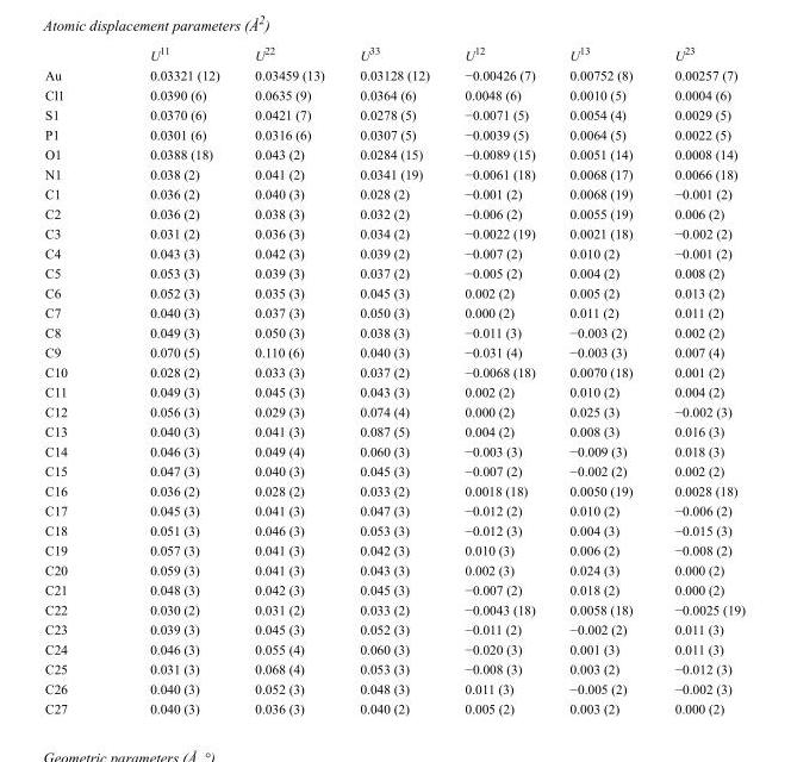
<table><thead><tr><td></td><td>U<sup>11</sup></td><td>U<sup>22</sup></td><td>U<sup>33</sup></td><td>U<sup>12</sup></td><td>U<sup>13</sup></td><td>U<sup>23</sup></td></tr></thead><tbody><tr><td>Au</td><td>0.03321 (12)</td><td>0.03459 (13)</td><td>0.03128 (12)</td><td>−0.00426 (7)</td><td>0.00752 (8)</td><td>0.00257 (7)</td></tr><tr><td>Cl1</td><td>0.0390 (6)</td><td>0.0635 (9)</td><td>0.0364 (6)</td><td>0.0048 (6)</td><td>0.0010 (5)</td><td>0.0004 (6)</td></tr><tr><td>S1</td><td>0.0370 (6)</td><td>0.0421 (7)</td><td>0.0278 (5)</td><td>−0.0071 (5)</td><td>0.0054 (4)</td><td>0.0029 (5)</td></tr><tr><td>P1</td><td>0.0301 (6)</td><td>0.0316 (6)</td><td>0.0307 (5)</td><td>−0.0039 (5)</td><td>0.0064 (5)</td><td>0.0022 (5)</td></tr><tr><td>O1</td><td>0.0388 (18)</td><td>0.043 (2)</td><td>0.0284 (15)</td><td>−0.0089 (15)</td><td>0.0051 (14)</td><td>0.0008 (14)</td></tr><tr><td>N1</td><td>0.038 (2)</td><td>0.041 (2)</td><td>0.0341 (19)</td><td>−0.0061 (18)</td><td>0.0068 (17)</td><td>0.0066 (18)</td></tr><tr><td>C1</td><td>0.036 (2)</td><td>0.040 (3)</td><td>0.028 (2)</td><td>−0.001 (2)</td><td>0.0068 (19)</td><td>−0.001 (2)</td></tr><tr><td>C2</td><td>0.036 (2)</td><td>0.038 (3)</td><td>0.032 (2)</td><td>−0.006 (2)</td><td>0.0055 (19)</td><td>0.006 (2)</td></tr><tr><td>C3</td><td>0.031 (2)</td><td>0.036 (3)</td><td>0.034 (2)</td><td>−0.0022 (19)</td><td>0.0021 (18)</td><td>−0.002 (2)</td></tr><tr><td>C4</td><td>0.043 (3)</td><td>0.042 (3)</td><td>0.039 (2)</td><td>−0.007 (2)</td><td>0.010 (2)</td><td>−0.001 (2)</td></tr><tr><td>C5</td><td>0.053 (3)</td><td>0.039 (3)</td><td>0.037 (2)</td><td>−0.005 (2)</td><td>0.004 (2)</td><td>0.008 (2)</td></tr><tr><td>C6</td><td>0.052 (3)</td><td>0.035 (3)</td><td>0.045 (3)</td><td>0.002 (2)</td><td>0.005 (2)</td><td>0.013 (2)</td></tr><tr><td>C7</td><td>0.040 (3)</td><td>0.037 (3)</td><td>0.050 (3)</td><td>0.000 (2)</td><td>0.011 (2)</td><td>0.011 (2)</td></tr><tr><td>C8</td><td>0.049 (3)</td><td>0.050 (3)</td><td>0.038 (3)</td><td>−0.011 (3)</td><td>−0.003 (2)</td><td>0.002 (2)</td></tr><tr><td>C9</td><td>0.070 (5)</td><td>0.110 (6)</td><td>0.040 (3)</td><td>−0.031 (4)</td><td>−0.003 (3)</td><td>0.007 (4)</td></tr><tr><td>C10</td><td>0.028 (2)</td><td>0.033 (3)</td><td>0.037 (2)</td><td>−0.0068 (18)</td><td>0.0070 (18)</td><td>0.001 (2)</td></tr><tr><td>C11</td><td>0.049 (3)</td><td>0.045 (3)</td><td>0.043 (3)</td><td>0.002 (2)</td><td>0.010 (2)</td><td>0.004 (2)</td></tr><tr><td>C12</td><td>0.056 (3)</td><td>0.029 (3)</td><td>0.074 (4)</td><td>0.000 (2)</td><td>0.025 (3)</td><td>−0.002 (3)</td></tr><tr><td>C13</td><td>0.040 (3)</td><td>0.041 (3)</td><td>0.087 (5)</td><td>0.004 (2)</td><td>0.008 (3)</td><td>0.016 (3)</td></tr><tr><td>C14</td><td>0.046 (3)</td><td>0.049 (4)</td><td>0.060 (3)</td><td>−0.003 (3)</td><td>−0.009 (3)</td><td>0.018 (3)</td></tr><tr><td>C15</td><td>0.047 (3)</td><td>0.040 (3)</td><td>0.045 (3)</td><td>−0.007 (2)</td><td>−0.002 (2)</td><td>0.002 (2)</td></tr><tr><td>C16</td><td>0.036 (2)</td><td>0.028 (2)</td><td>0.033 (2)</td><td>0.0018 (18)</td><td>0.0050 (19)</td><td>0.0028 (18)</td></tr><tr><td>C17</td><td>0.045 (3)</td><td>0.041 (3)</td><td>0.047 (3)</td><td>−0.012 (2)</td><td>0.010 (2)</td><td>−0.006 (2)</td></tr><tr><td>C18</td><td>0.051 (3)</td><td>0.046 (3)</td><td>0.053 (3)</td><td>−0.012 (3)</td><td>0.004 (3)</td><td>−0.015 (3)</td></tr><tr><td>C19</td><td>0.057 (3)</td><td>0.041 (3)</td><td>0.042 (3)</td><td>0.010 (3)</td><td>0.006 (2)</td><td>−0.008 (2)</td></tr><tr><td>C20</td><td>0.059 (3)</td><td>0.041 (3)</td><td>0.043 (3)</td><td>0.002 (3)</td><td>0.024 (3)</td><td>0.000 (2)</td></tr><tr><td>C21</td><td>0.048 (3)</td><td>0.042 (3)</td><td>0.045 (3)</td><td>−0.007 (2)</td><td>0.018 (2)</td><td>0.000 (2)</td></tr><tr><td>C22</td><td>0.030 (2)</td><td>0.031 (2)</td><td>0.033 (2)</td><td>−0.0043 (18)</td><td>0.0058 (18)</td><td>−0.0025 (19)</td></tr><tr><td>C23</td><td>0.039 (3)</td><td>0.045 (3)</td><td>0.052 (3)</td><td>−0.011 (2)</td><td>−0.002 (2)</td><td>0.011 (3)</td></tr><tr><td>C24</td><td>0.046 (3)</td><td>0.055 (4)</td><td>0.060 (3)</td><td>−0.020 (3)</td><td>0.001 (3)</td><td>0.011 (3)</td></tr><tr><td>C25</td><td>0.031 (3)</td><td>0.068 (4)</td><td>0.053 (3)</td><td>−0.008 (3)</td><td>0.003 (2)</td><td>−0.012 (3)</td></tr><tr><td>C26</td><td>0.040 (3)</td><td>0.052 (3)</td><td>0.048 (3)</td><td>0.011 (3)</td><td>−0.005 (2)</td><td>−0.002 (3)</td></tr><tr><td>C27</td><td>0.040 (3)</td><td>0.036 (3)</td><td>0.040 (2)</td><td>0.005 (2)</td><td>0.003 (2)</td><td>0.000 (2)</td></tr></tbody></table>